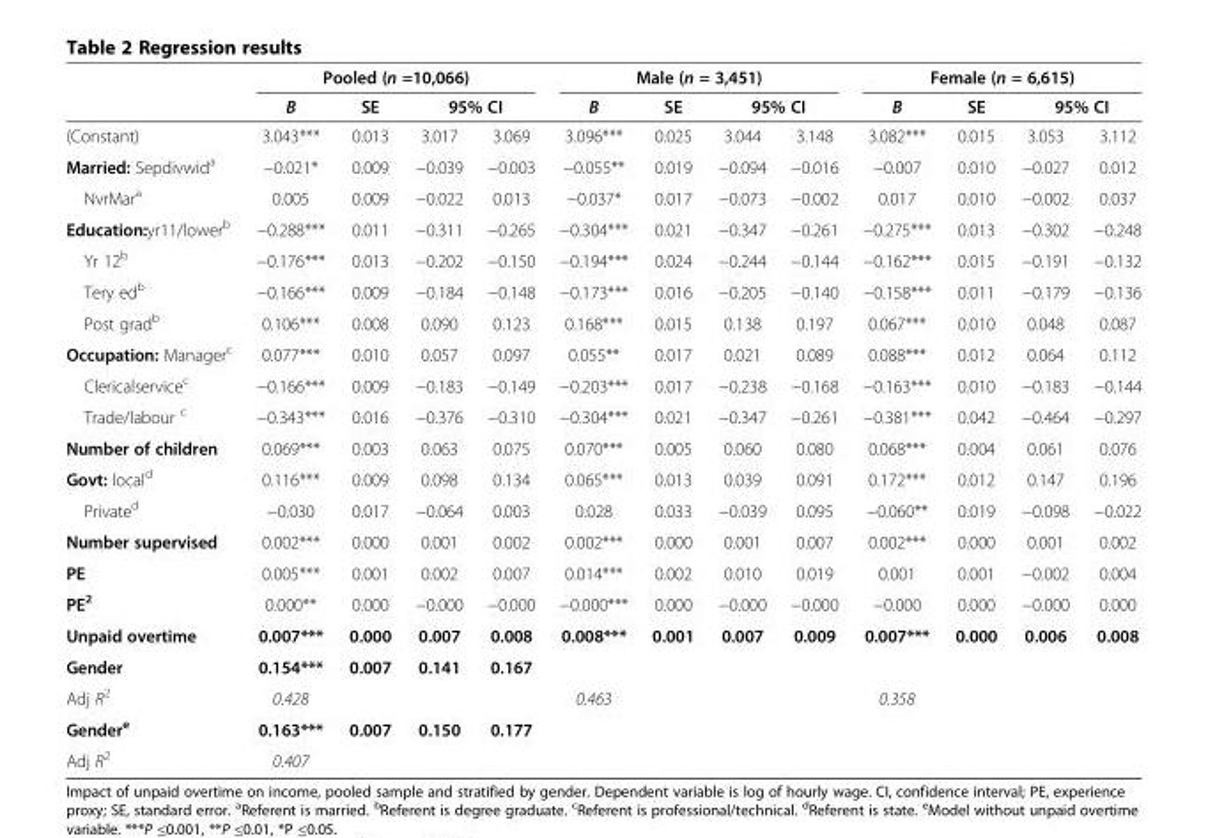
<table><thead><tr><td rowspan="3">(Constant)</td><td colspan="4">Pooled (n =10,066)</td><td colspan="4">Male (n = 3,451)</td><td colspan="4">Female (n = 6,615)</td></tr><tr><td rowspan="2">B 3.043***</td><td rowspan="2">SE 0.013</td><td colspan="2">95% CI</td><td rowspan="2">B 3.096***</td><td rowspan="2">SE 0.025</td><td colspan="2">95% CI</td><td rowspan="2">B 3.082***</td><td rowspan="2">SE 0.015</td><td colspan="2">95% CI</td></tr><tr><td>3.017</td><td>3.069</td><td>3.044</td><td>3.148</td><td>3.053</td><td>3.112</td></tr></thead><tbody><tr><td>Married: Sepdivwid<sup>a</sup></td><td>−0.021*</td><td>0.009</td><td>−0.039</td><td>−0.003</td><td>−0.055**</td><td>0.019</td><td>−0.094</td><td>−0.016</td><td>−0.007</td><td>0.010</td><td>−0.027</td><td>0.012</td></tr><tr><td>NvrMar<sup>a</sup></td><td>0.005</td><td>0.009</td><td>−0.022</td><td>0.013</td><td>−0.037*</td><td>0.017</td><td>−0.073</td><td>−0.002</td><td>0.017</td><td>0.010</td><td>−0.002</td><td>0.037</td></tr><tr><td>Education:yr11/lower<sup>b</sup></td><td>−0.288***</td><td>0.011</td><td>−0.311</td><td>−0.265</td><td>−0.304***</td><td>0.021</td><td>−0.347</td><td>−0.261</td><td>−0.275***</td><td>0.013</td><td>−0.302</td><td>−0.248</td></tr><tr><td>Yr 12<sup>b</sup></td><td>−0.176***</td><td>0.013</td><td>−0.202</td><td>−0.150</td><td>−0.194***</td><td>0.024</td><td>−0.244</td><td>−0.144</td><td>−0.162***</td><td>0.015</td><td>−0.191</td><td>−0.132</td></tr><tr><td>Tery ed<sup>b</sup></td><td>−0.166***</td><td>0.009</td><td>−0.184</td><td>−0.148</td><td>−0.173***</td><td>0.016</td><td>−0.205</td><td>−0.140</td><td>−0.158***</td><td>0.011</td><td>−0.179</td><td>−0.136</td></tr><tr><td>Post grad<sup>b</sup></td><td>0.106***</td><td>0.008</td><td>0.090</td><td>0.123</td><td>0.168***</td><td>0.015</td><td>0.138</td><td>0.197</td><td>0.067***</td><td>0.010</td><td>0.048</td><td>0.087</td></tr><tr><td>Occupation: Manager<sup>c</sup></td><td>0.077***</td><td>0.010</td><td>0.057</td><td>0.097</td><td>0.055**</td><td>0.017</td><td>0.021</td><td>0.089</td><td>0.088***</td><td>0.012</td><td>0.064</td><td>0.112</td></tr><tr><td>Clericalservice<sup>c</sup></td><td>−0.166***</td><td>0.009</td><td>−0.183</td><td>−0.149</td><td>−0.203***</td><td>0.017</td><td>−0.238</td><td>−0.168</td><td>−0.163***</td><td>0.010</td><td>−0.183</td><td>−0.144</td></tr><tr><td>Trade/labour <sup>c</sup></td><td>−0.343***</td><td>0.016</td><td>−0.376</td><td>−0.310</td><td>−0.304***</td><td>0.021</td><td>−0.347</td><td>−0.261</td><td>−0.381***</td><td>0.042</td><td>−0.464</td><td>−0.297</td></tr><tr><td>Number of children</td><td>0.069***</td><td>0.003</td><td>0.063</td><td>0.075</td><td>0.070***</td><td>0.005</td><td>0.060</td><td>0.080</td><td>0.068***</td><td>0.004</td><td>0.061</td><td>0.076</td></tr><tr><td>Govt: local<sup>d</sup></td><td>0.116***</td><td>0.009</td><td>0.098</td><td>0.134</td><td>0.065***</td><td>0.013</td><td>0.039</td><td>0.091</td><td>0.172***</td><td>0.012</td><td>0.147</td><td>0.196</td></tr><tr><td>Private<sup>d</sup></td><td>−0.030</td><td>0.017</td><td>−0.064</td><td>0.003</td><td>0.028</td><td>0.033</td><td>−0.039</td><td>0.095</td><td>−0.060**</td><td>0.019</td><td>−0.098</td><td>−0.022</td></tr><tr><td>Number supervised</td><td>0.002***</td><td>0.000</td><td>0.001</td><td>0.002</td><td>0.002***</td><td>0.000</td><td>0.001</td><td>0.007</td><td>0.002***</td><td>0.000</td><td>0.001</td><td>0.002</td></tr><tr><td>PE</td><td>0.005***</td><td>0.001</td><td>0.002</td><td>0.007</td><td>0.014***</td><td>0.002</td><td>0.010</td><td>0.019</td><td>0.001</td><td>0.001</td><td>−0.002</td><td>0.004</td></tr><tr><td>PE<sup>2</sup></td><td>0.000**</td><td>0.000</td><td>−0.000</td><td>−0.000</td><td>−0.000***</td><td>0.000</td><td>−0.000</td><td>−0.000</td><td>−0.000</td><td>0.000</td><td>−0.000</td><td>0.000</td></tr><tr><td>Unpaid overtime</td><td>0.007***</td><td>0.000</td><td>0.007</td><td>0.008</td><td>0.008***</td><td>0.001</td><td>0.007</td><td>0.009</td><td>0.007***</td><td>0.000</td><td>0.006</td><td>0.008</td></tr><tr><td>Gender</td><td>0.154***</td><td>0.007</td><td>0.141</td><td>0.167</td><td></td><td></td><td></td><td></td><td></td><td></td><td></td><td></td></tr><tr><td>Adj R<sup>2</sup></td><td>0.428</td><td></td><td></td><td></td><td>0.463</td><td></td><td></td><td></td><td>0.358</td><td></td><td></td><td></td></tr><tr><td>Gender<sup>e</sup></td><td>0.163***</td><td>0.007</td><td>0.150</td><td>0.177</td><td></td><td></td><td></td><td></td><td></td><td></td><td></td><td></td></tr><tr><td>Adj R<sup>2</sup></td><td>0.407</td><td></td><td></td><td></td><td></td><td></td><td></td><td></td><td></td><td></td><td></td><td></td></tr></tbody></table>